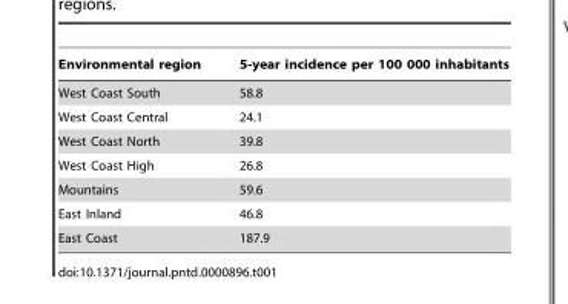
<table><thead><tr><td>Environmental region</td><td>5-year incidence per 100 000 inhabitants</td></tr></thead><tbody><tr><td>West Coast South</td><td>58.8</td></tr><tr><td>West Coast Central</td><td>24.1</td></tr><tr><td>West Coast North</td><td>39.8</td></tr><tr><td>West Coast High</td><td>26.8</td></tr><tr><td>Mountains</td><td>59.6</td></tr><tr><td>East Inland</td><td>46.8</td></tr><tr><td>East Coast</td><td>187.9</td></tr></tbody></table>